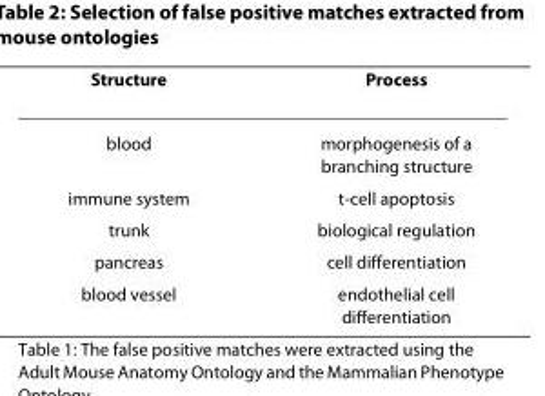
<table><thead><tr><td>Structure</td><td>Process</td></tr></thead><tbody><tr><td>blood</td><td>morphogenesis of a branching structure</td></tr><tr><td>immune system</td><td>t-cell apoptosis</td></tr><tr><td>trunk</td><td>biological regulation</td></tr><tr><td>pancreas</td><td>cell differentiation</td></tr><tr><td>blood vessel</td><td>endothelial cell differentiation</td></tr></tbody></table>